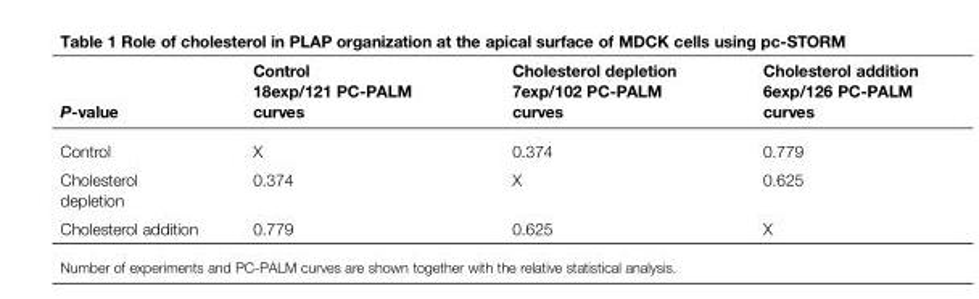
<table><thead><tr><td>P-value</td><td>Control 18exp/121 PC-PALM curves</td><td>Cholesterol depletion 7exp/102 PC-PALM curves</td><td>Cholesterol addition 6exp/126 PC-PALM curves</td></tr></thead><tbody><tr><td>Control</td><td>X</td><td>0.374</td><td>0.779</td></tr><tr><td>Cholesterol depletion</td><td>0.374</td><td>X</td><td>0.625</td></tr><tr><td>Cholesterol addition</td><td>0.779</td><td>0.625</td><td>X</td></tr></tbody></table>